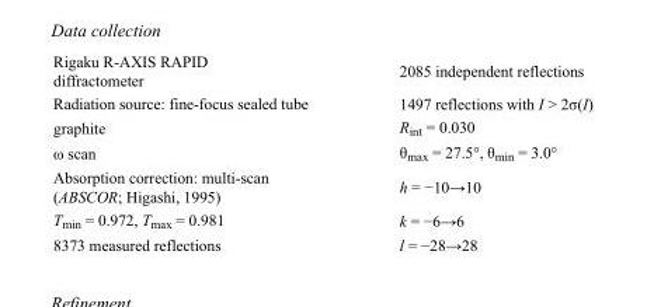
<table><tbody><tr><td>Rigaku R-AXIS RAPID diffractometer</td><td>2085 independent reflections</td></tr><tr><td>Radiation source: fine-focus sealed tube</td><td>1497 reflections with I &gt; 2σ(I)</td></tr><tr><td>graphite</td><td>R<sub>int</sub> = 0.030</td></tr><tr><td>ω scan</td><td>θ<sub>max</sub> = 27.5°, θ<sub>min</sub> = 3.0°</td></tr><tr><td>Absorption correction: multi-scan (ABSCOR; Higashi, 1995)</td><td>h = −10→10</td></tr><tr><td>T<sub>min</sub> = 0.972, T<sub>max</sub> = 0.981</td><td>k = −6→6</td></tr><tr><td>8373 measured reflections</td><td>l = −28→28</td></tr></tbody></table>